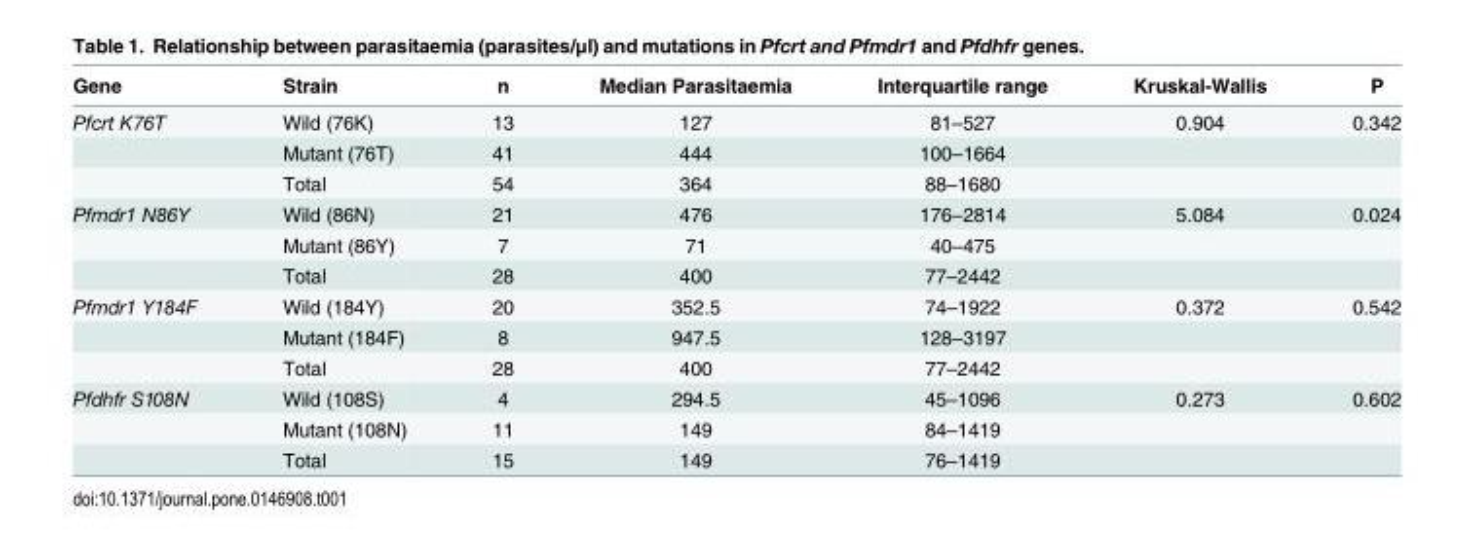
<table><thead><tr><td>Gene</td><td>Strain</td><td>n</td><td>Median Parasitaemia</td><td>Interquartile range</td><td>Kruskal-Wallis</td><td>P</td></tr></thead><tbody><tr><td rowspan="3">Pfcrt K76T</td><td>Wild (76K)</td><td>13</td><td>127</td><td>81–527</td><td>0.904</td><td>0.342</td></tr><tr><td>Mutant (76T)</td><td>41</td><td>444</td><td>100–1664</td><td></td><td></td></tr><tr><td>Total</td><td>54</td><td>364</td><td>88–1680</td><td></td><td></td></tr><tr><td rowspan="3">Pfmdr1 N86Y</td><td>Wild (86N)</td><td>21</td><td>476</td><td>176–2814</td><td>5.084</td><td>0.024</td></tr><tr><td>Mutant (86Y)</td><td>7</td><td>71</td><td>40–475</td><td></td><td></td></tr><tr><td>Total</td><td>28</td><td>400</td><td>77–2442</td><td></td><td></td></tr><tr><td rowspan="3">Pfmdr1 Y184F</td><td>Wild (184Y)</td><td>20</td><td>352.5</td><td>74–1922</td><td>0.372</td><td>0.542</td></tr><tr><td>Mutant (184F)</td><td>8</td><td>947.5</td><td>128–3197</td><td></td><td></td></tr><tr><td>Total</td><td>28</td><td>400</td><td>77–2442</td><td></td><td></td></tr><tr><td rowspan="3">Pfdhfr S108N</td><td>Wild (108S)</td><td>4</td><td>294.5</td><td>45–1096</td><td>0.273</td><td>0.602</td></tr><tr><td>Mutant (108N)</td><td>11</td><td>149</td><td>84–1419</td><td></td><td></td></tr><tr><td>Total</td><td>15</td><td>149</td><td>76–1419</td><td></td><td></td></tr></tbody></table>